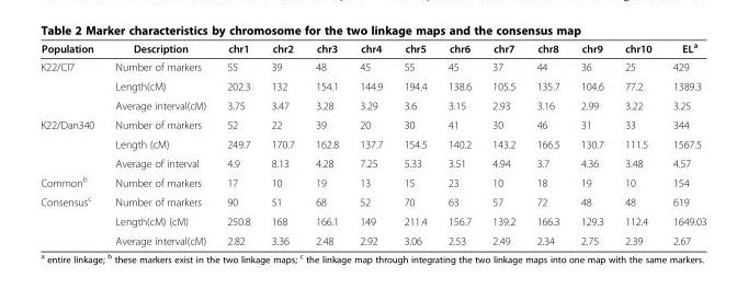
<table><thead><tr><td>Population</td><td>Description</td><td>chr1</td><td>chr2</td><td>chr3</td><td>chr4</td><td>chr5</td><td>chr6</td><td>chr7</td><td>chr8</td><td>chr9</td><td>chr10</td><td>EL<sup>a</sup></td></tr></thead><tbody><tr><td rowspan="3">K22/CI7</td><td>Number of markers</td><td>55</td><td>39</td><td>48</td><td>45</td><td>55</td><td>45</td><td>37</td><td>44</td><td>36</td><td>25</td><td>429</td></tr><tr><td>Length(cM)</td><td>202.3</td><td>132</td><td>154.1</td><td>144.9</td><td>194.4</td><td>138.6</td><td>105.5</td><td>135.7</td><td>104.6</td><td>77.2</td><td>1389.3</td></tr><tr><td>Average interval(cM)</td><td>3.75</td><td>3.47</td><td>3.28</td><td>3.29</td><td>3.6</td><td>3.15</td><td>2.93</td><td>3.16</td><td>2.99</td><td>3.22</td><td>3.25</td></tr><tr><td rowspan="3">K22/Dan340</td><td>Number of markers</td><td>52</td><td>22</td><td>39</td><td>20</td><td>30</td><td>41</td><td>30</td><td>46</td><td>31</td><td>33</td><td>344</td></tr><tr><td>Length (cM)</td><td>249.7</td><td>170.7</td><td>162.8</td><td>137.7</td><td>154.5</td><td>140.2</td><td>143.2</td><td>166.5</td><td>130.7</td><td>111.5</td><td>1567.5</td></tr><tr><td>Average of interval</td><td>4.9</td><td>8.13</td><td>4.28</td><td>7.25</td><td>5.33</td><td>3.51</td><td>4.94</td><td>3.7</td><td>4.36</td><td>3.48</td><td>4.57</td></tr><tr><td>Common<sup>b</sup></td><td>Number of markers</td><td>17</td><td>10</td><td>19</td><td>13</td><td>15</td><td>23</td><td>10</td><td>18</td><td>19</td><td>10</td><td>154</td></tr><tr><td rowspan="3">Consensus<sup>c</sup></td><td>Number of markers</td><td>90</td><td>51</td><td>68</td><td>52</td><td>70</td><td>63</td><td>57</td><td>72</td><td>48</td><td>48</td><td>619</td></tr><tr><td>Length(cM) (cM)</td><td>250.8</td><td>168</td><td>166.1</td><td>149</td><td>211.4</td><td>156.7</td><td>139.2</td><td>166.3</td><td>129.3</td><td>112.4</td><td>1649.03</td></tr><tr><td>Average interval(cM)</td><td>2.82</td><td>3.36</td><td>2.48</td><td>2.92</td><td>3.06</td><td>2.53</td><td>2.49</td><td>2.34</td><td>2.75</td><td>2.39</td><td>2.67</td></tr></tbody></table>